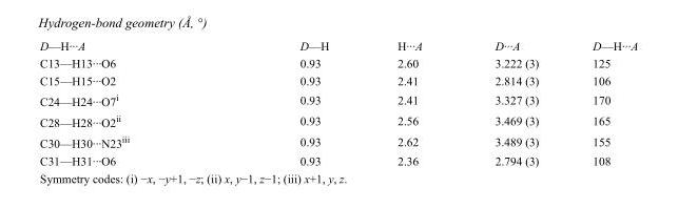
<table><tbody><tr><td>D—H···A</td><td>D—H</td><td>H···A</td><td>D···A</td><td>D—H···A</td></tr><tr><td>C13—H13···O6</td><td>0.93</td><td>2.60</td><td>3.222 (3)</td><td>125</td></tr><tr><td>C15—H15···O2</td><td>0.93</td><td>2.41</td><td>2.814 (3)</td><td>106</td></tr><tr><td>C24—H24···O7<sup>i</sup></td><td>0.93</td><td>2.41</td><td>3.327 (3)</td><td>170</td></tr><tr><td>C28—H28···O2<sup>ii</sup></td><td>0.93</td><td>2.56</td><td>3.469 (3)</td><td>165</td></tr><tr><td>C30—H30···N23<sup>iii</sup></td><td>0.93</td><td>2.62</td><td>3.489 (3)</td><td>155</td></tr><tr><td>C31—H31···O6</td><td>0.93</td><td>2.36</td><td>2.794 (3)</td><td>108</td></tr></tbody></table>